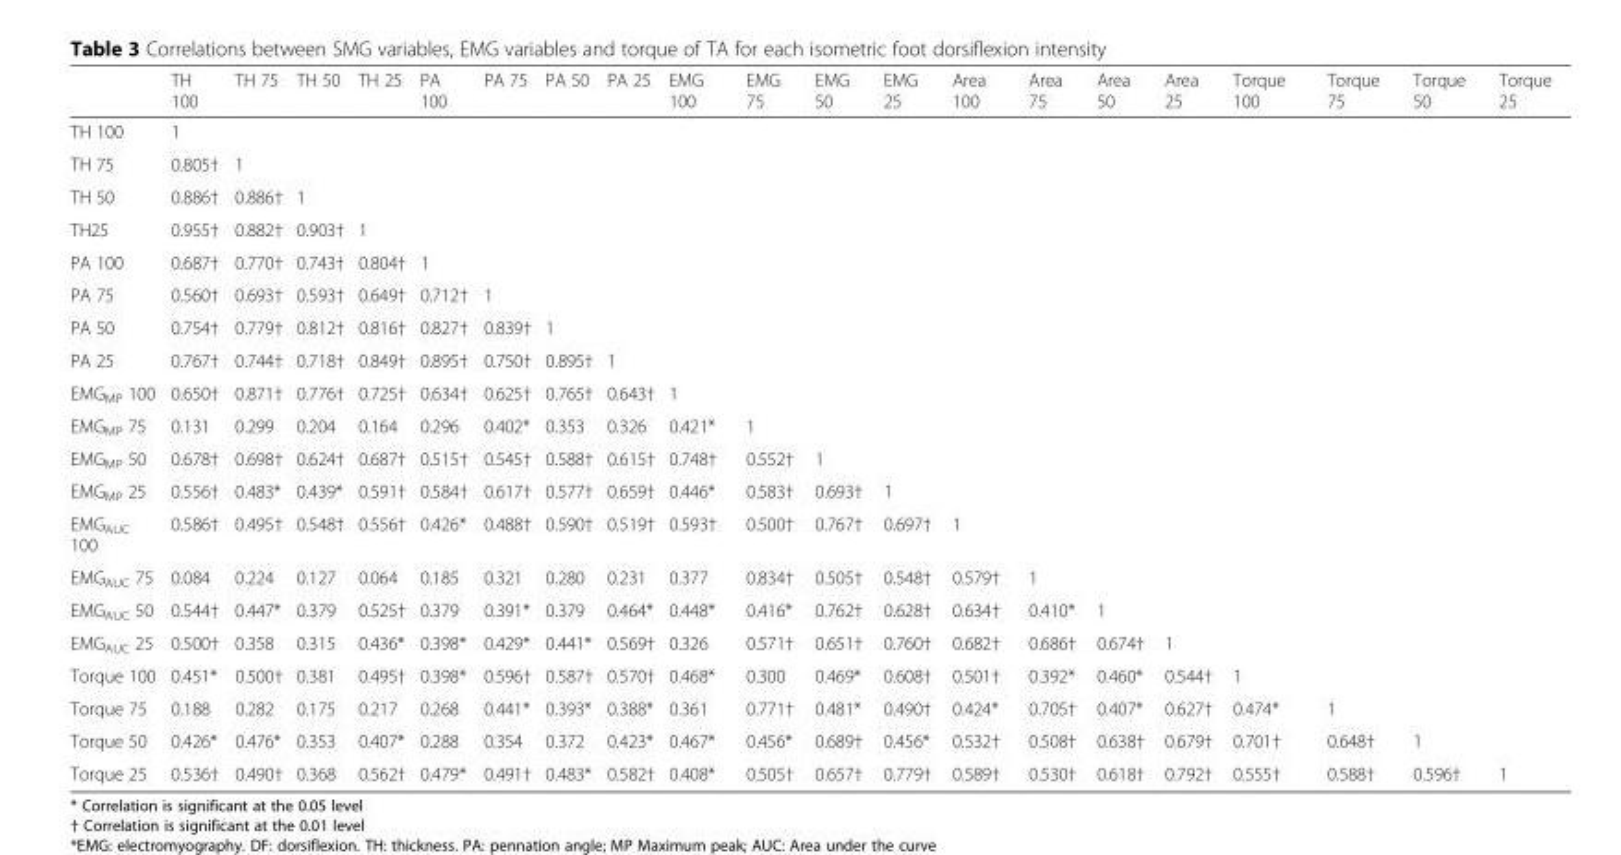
<table><thead><tr><td></td><td>TH 100</td><td>TH 75</td><td>TH 50</td><td>TH 25</td><td>PA 100</td><td>PA 75</td><td>PA 50</td><td>PA 25</td><td>EMG 100</td><td>EMG 75</td><td>EMG 50</td><td>EMG 25</td><td>Area 100</td><td>Area 75</td><td>Area 50</td><td>Area 25</td><td>Torque 100</td><td>Torque 75</td><td>Torque 50</td><td>Torque 25</td></tr></thead><tbody><tr><td>TH 100</td><td>1</td><td></td><td></td><td></td><td></td><td></td><td></td><td></td><td></td><td></td><td></td><td></td><td></td><td></td><td></td><td></td><td></td><td></td><td></td><td></td></tr><tr><td>TH 75</td><td>0.805†</td><td>1</td><td></td><td></td><td></td><td></td><td></td><td></td><td></td><td></td><td></td><td></td><td></td><td></td><td></td><td></td><td></td><td></td><td></td><td></td></tr><tr><td>TH 50</td><td>0.886†</td><td>0.886†</td><td>1</td><td></td><td></td><td></td><td></td><td></td><td></td><td></td><td></td><td></td><td></td><td></td><td></td><td></td><td></td><td></td><td></td><td></td></tr><tr><td>TH25</td><td>0.955†</td><td>0.882†</td><td>0.903†</td><td>1</td><td></td><td></td><td></td><td></td><td></td><td></td><td></td><td></td><td></td><td></td><td></td><td></td><td></td><td></td><td></td><td></td></tr><tr><td>PA 100</td><td>0.687†</td><td>0.770†</td><td>0.743†</td><td>0.804†</td><td>1</td><td></td><td></td><td></td><td></td><td></td><td></td><td></td><td></td><td></td><td></td><td></td><td></td><td></td><td></td><td></td></tr><tr><td>PA 75</td><td>0.560†</td><td>0.693†</td><td>0.593†</td><td>0.649†</td><td>0.712†</td><td>1</td><td></td><td></td><td></td><td></td><td></td><td></td><td></td><td></td><td></td><td></td><td></td><td></td><td></td><td></td></tr><tr><td>PA 50</td><td>0.754†</td><td>0.779†</td><td>0.812†</td><td>0.816†</td><td>0.827†</td><td>0.839†</td><td>1</td><td></td><td></td><td></td><td></td><td></td><td></td><td></td><td></td><td></td><td></td><td></td><td></td><td></td></tr><tr><td>PA 25</td><td>0.767†</td><td>0.744†</td><td>0.718†</td><td>0.849†</td><td>0.895†</td><td>0.750†</td><td>0.895†</td><td>1</td><td></td><td></td><td></td><td></td><td></td><td></td><td></td><td></td><td></td><td></td><td></td><td></td></tr><tr><td>EMG<sub>MP</sub> 100</td><td>0.650†</td><td>0.871†</td><td>0.776†</td><td>0.725†</td><td>0.634†</td><td>0.625†</td><td>0.765†</td><td>0.643†</td><td>1</td><td></td><td></td><td></td><td></td><td></td><td></td><td></td><td></td><td></td><td></td><td></td></tr><tr><td>EMG<sub>MP</sub> 75</td><td>0.131</td><td>0.299</td><td>0.204</td><td>0.164</td><td>0.296</td><td>0.402*</td><td>0.353</td><td>0.326</td><td>0.421*</td><td>1</td><td></td><td></td><td></td><td></td><td></td><td></td><td></td><td></td><td></td><td></td></tr><tr><td>EMG<sub>MP</sub> 50</td><td>0.678†</td><td>0.698†</td><td>0.624†</td><td>0.687†</td><td>0.515†</td><td>0.545†</td><td>0.588†</td><td>0.615†</td><td>0.748†</td><td>0.552†</td><td>1</td><td></td><td></td><td></td><td></td><td></td><td></td><td></td><td></td><td></td></tr><tr><td>EMG<sub>MP</sub> 25</td><td>0.556†</td><td>0.483*</td><td>0.439*</td><td>0.591†</td><td>0.584†</td><td>0.617†</td><td>0.577†</td><td>0.659†</td><td>0.446*</td><td>0.583†</td><td>0.693†</td><td>1</td><td></td><td></td><td></td><td></td><td></td><td></td><td></td><td></td></tr><tr><td>EMG<sub>AUC</sub> 100</td><td>0.586†</td><td>0.495†</td><td>0.548†</td><td>0.556†</td><td>0.426*</td><td>0.488†</td><td>0.590†</td><td>0.519†</td><td>0.593†</td><td>0.500†</td><td>0.767†</td><td>0.697†</td><td>1</td><td></td><td></td><td></td><td></td><td></td><td></td><td></td></tr><tr><td>EMG<sub>AUC</sub> 75</td><td>0.084</td><td>0.224</td><td>0.127</td><td>0.064</td><td>0.185</td><td>0.321</td><td>0.280</td><td>0.231</td><td>0.377</td><td>0.834†</td><td>0.505†</td><td>0.548†</td><td>0.579†</td><td>1</td><td></td><td></td><td></td><td></td><td></td><td></td></tr><tr><td>EMG<sub>AUC</sub> 50</td><td>0.544†</td><td>0.447*</td><td>0.379</td><td>0.525†</td><td>0.379</td><td>0.391*</td><td>0.379</td><td>0.464*</td><td>0.448*</td><td>0.416*</td><td>0.762†</td><td>0.628†</td><td>0.634†</td><td>0.410*</td><td>1</td><td></td><td></td><td></td><td></td><td></td></tr><tr><td>EMG<sub>AUC</sub> 25</td><td>0.500†</td><td>0.358</td><td>0.315</td><td>0.436*</td><td>0.398*</td><td>0.429*</td><td>0.441*</td><td>0.569†</td><td>0.326</td><td>0.571†</td><td>0.651†</td><td>0.760†</td><td>0.682†</td><td>0.686†</td><td>0.674†</td><td>1</td><td></td><td></td><td></td><td></td></tr><tr><td>Torque 100</td><td>0.451*</td><td>0.500†</td><td>0.381</td><td>0.495†</td><td>0.398*</td><td>0.596†</td><td>0.587†</td><td>0.570†</td><td>0.468*</td><td>0.300</td><td>0.469*</td><td>0.608†</td><td>0.501†</td><td>0.392*</td><td>0.460*</td><td>0.544†</td><td>1</td><td></td><td></td><td></td></tr><tr><td>Torque 75</td><td>0.188</td><td>0.282</td><td>0.175</td><td>0.217</td><td>0.268</td><td>0.441*</td><td>0.393*</td><td>0.388*</td><td>0.361</td><td>0.771†</td><td>0.481*</td><td>0.490†</td><td>0.424*</td><td>0.705†</td><td>0.407*</td><td>0.627†</td><td>0.474*</td><td>1</td><td></td><td></td></tr><tr><td>Torque 50</td><td>0.426*</td><td>0.476*</td><td>0.353</td><td>0.407*</td><td>0.288</td><td>0.354</td><td>0.372</td><td>0.423*</td><td>0.467*</td><td>0.456*</td><td>0.689†</td><td>0.456*</td><td>0.532†</td><td>0.508†</td><td>0.638†</td><td>0.679†</td><td>0.701†</td><td>0.648†</td><td>1</td><td></td></tr><tr><td>Torque 25</td><td>0.536†</td><td>0.490†</td><td>0.368</td><td>0.562†</td><td>0.479*</td><td>0.491†</td><td>0.483*</td><td>0.582†</td><td>0.408*</td><td>0.505†</td><td>0.657†</td><td>0.779†</td><td>0.589†</td><td>0.530†</td><td>0.618†</td><td>0.792†</td><td>0.555†</td><td>0.588†</td><td>0.596†</td><td>1</td></tr></tbody></table>